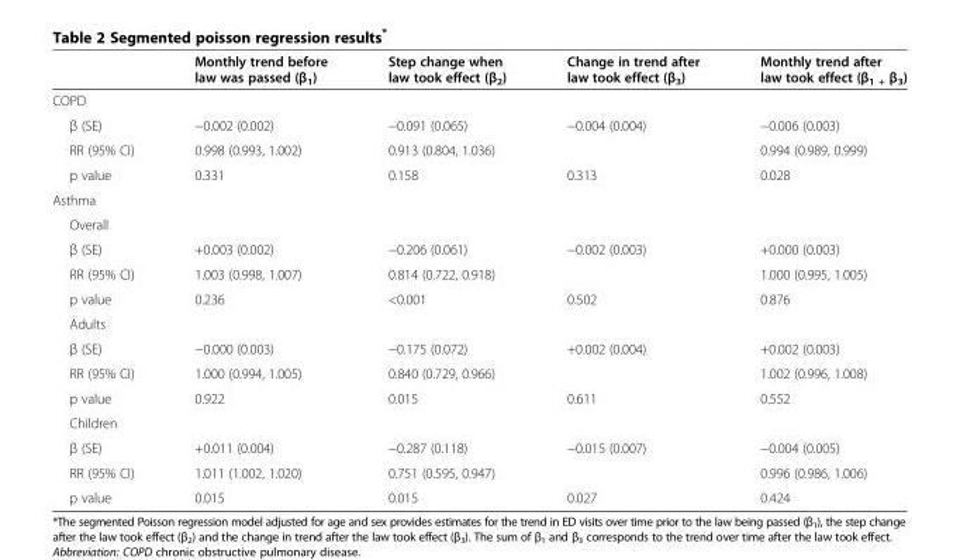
<table><thead><tr><td></td><td>Monthly trend before law was passed (β<sub>1</sub>)</td><td>Step change when law took effect (β<sub>2</sub>)</td><td>Change in trend after law took effect (β<sub>3</sub>)</td><td>Monthly trend after law took effect (β<sub>1 +</sub> β<sub>3</sub>)</td></tr></thead><tbody><tr><td colspan="5">COPD</td></tr><tr><td>β (SE)</td><td>−0.002 (0.002)</td><td>−0.091 (0.065)</td><td>−0.004 (0.004)</td><td>−0.006 (0.003)</td></tr><tr><td>RR (95% CI)</td><td>0.998 (0.993, 1.002)</td><td>0.913 (0.804, 1.036)</td><td></td><td>0.994 (0.989, 0.999)</td></tr><tr><td>p value</td><td>0.331</td><td>0.158</td><td>0.313</td><td>0.028</td></tr><tr><td colspan="5">Asthma</td></tr><tr><td colspan="5">Overall</td></tr><tr><td>β (SE)</td><td>+0.003 (0.002)</td><td>−0.206 (0.061)</td><td>−0.002 (0.003)</td><td>+0.000 (0.003)</td></tr><tr><td>RR (95% CI)</td><td>1.003 (0.998, 1.007)</td><td>0.814 (0.722, 0.918)</td><td></td><td>1.000 (0.995, 1.005)</td></tr><tr><td>p value</td><td>0.236</td><td>&lt;0.001</td><td>0.502</td><td>0.876</td></tr><tr><td colspan="5">Adults</td></tr><tr><td>β (SE)</td><td>−0.000 (0.003)</td><td>−0.175 (0.072)</td><td>+0.002 (0.004)</td><td>+0.002 (0.003)</td></tr><tr><td>RR (95% CI)</td><td>1.000 (0.994, 1.005)</td><td>0.840 (0.729, 0.966)</td><td></td><td>1.002 (0.996, 1.008)</td></tr><tr><td>p value</td><td>0.922</td><td>0.015</td><td>0.611</td><td>0.552</td></tr><tr><td colspan="5">Children</td></tr><tr><td>β (SE)</td><td>+0.011 (0.004)</td><td>−0.287 (0.118)</td><td>−0.015 (0.007)</td><td>−0.004 (0.005)</td></tr><tr><td>RR (95% CI)</td><td>1.011 (1.002, 1.020)</td><td>0.751 (0.595, 0.947)</td><td></td><td>0.996 (0.986, 1.006)</td></tr><tr><td>p value</td><td>0.015</td><td>0.015</td><td>0.027</td><td>0.424</td></tr></tbody></table>